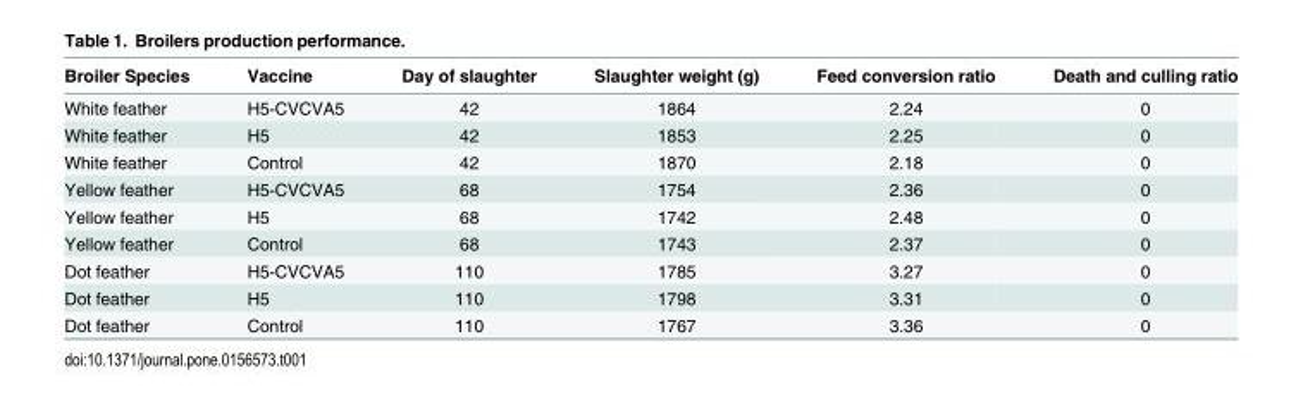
<table><thead><tr><td>Broiler Species</td><td>Vaccine</td><td>Day of slaughter</td><td>Slaughter weight (g)</td><td>Feed conversion ratio</td><td>Death and culling ratio</td></tr></thead><tbody><tr><td>White feather</td><td>H5-CVCVA5</td><td>42</td><td>1864</td><td>2.24</td><td>0</td></tr><tr><td>White feather</td><td>H5</td><td>42</td><td>1853</td><td>2.25</td><td>0</td></tr><tr><td>White feather</td><td>Control</td><td>42</td><td>1870</td><td>2.18</td><td>0</td></tr><tr><td>Yellow feather</td><td>H5-CVCVA5</td><td>68</td><td>1754</td><td>2.36</td><td>0</td></tr><tr><td>Yellow feather</td><td>H5</td><td>68</td><td>1742</td><td>2.48</td><td>0</td></tr><tr><td>Yellow feather</td><td>Control</td><td>68</td><td>1743</td><td>2.37</td><td>0</td></tr><tr><td>Dot feather</td><td>H5-CVCVA5</td><td>110</td><td>1785</td><td>3.27</td><td>0</td></tr><tr><td>Dot feather</td><td>H5</td><td>110</td><td>1798</td><td>3.31</td><td>0</td></tr><tr><td>Dot feather</td><td>Control</td><td>110</td><td>1767</td><td>3.36</td><td>0</td></tr></tbody></table>